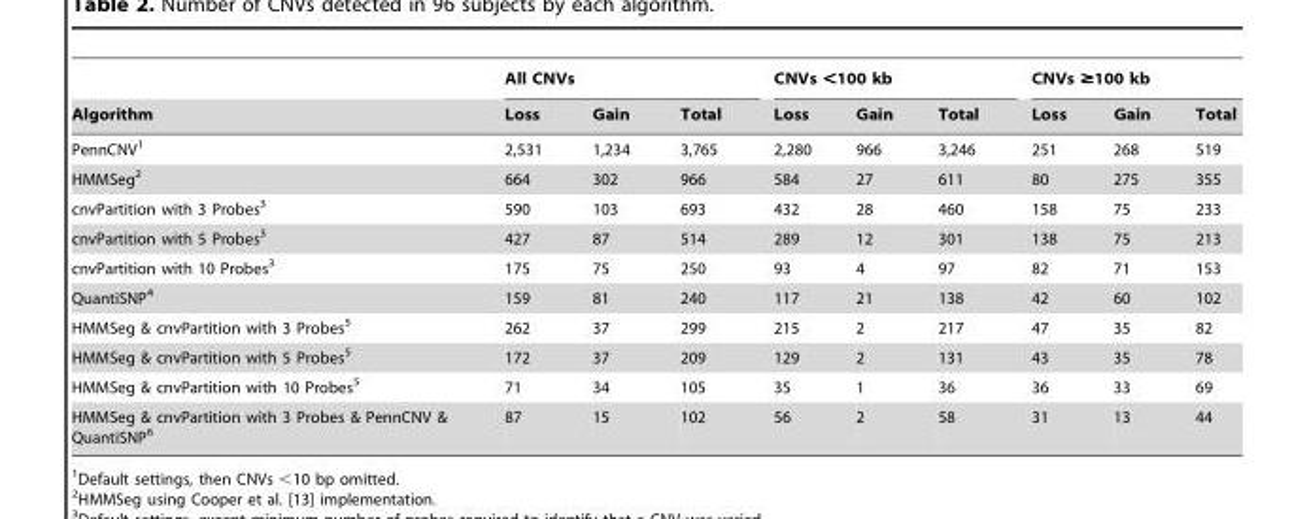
<table><thead><tr><td rowspan="2">Algorithm</td><td colspan="3">All CNVs</td><td colspan="3">CNVs &lt;100 kb</td><td colspan="3">CNVs ≥100 kb</td></tr><tr><td>Loss</td><td>Gain</td><td>Total</td><td>Loss</td><td>Gain</td><td>Total</td><td>Loss</td><td>Gain</td><td>Total</td></tr></thead><tbody><tr><td>PennCNV<sup>1</sup></td><td>2,531</td><td>1,234</td><td>3,765</td><td>2,280</td><td>966</td><td>3,246</td><td>251</td><td>268</td><td>519</td></tr><tr><td>HMMSeg<sup>2</sup></td><td>664</td><td>302</td><td>966</td><td>584</td><td>27</td><td>611</td><td>80</td><td>275</td><td>355</td></tr><tr><td>cnvPartition with 3 Probes<sup>3</sup></td><td>590</td><td>103</td><td>693</td><td>432</td><td>28</td><td>460</td><td>158</td><td>75</td><td>233</td></tr><tr><td>cnvPartition with 5 Probes<sup>3</sup></td><td>427</td><td>87</td><td>514</td><td>289</td><td>12</td><td>301</td><td>138</td><td>75</td><td>213</td></tr><tr><td>cnvPartition with 10 Probes<sup>3</sup></td><td>175</td><td>75</td><td>250</td><td>93</td><td>4</td><td>97</td><td>82</td><td>71</td><td>153</td></tr><tr><td>QuantiSNP<sup>4</sup></td><td>159</td><td>81</td><td>240</td><td>117</td><td>21</td><td>138</td><td>42</td><td>60</td><td>102</td></tr><tr><td>HMMSeg &amp; cnvPartition with 3 Probes<sup>5</sup></td><td>262</td><td>37</td><td>299</td><td>215</td><td>2</td><td>217</td><td>47</td><td>35</td><td>82</td></tr><tr><td>HMMSeg &amp; cnvPartition with 5 Probes<sup>5</sup></td><td>172</td><td>37</td><td>209</td><td>129</td><td>2</td><td>131</td><td>43</td><td>35</td><td>78</td></tr><tr><td>HMMSeg &amp; cnvPartition with 10 Probes<sup>5</sup></td><td>71</td><td>34</td><td>105</td><td>35</td><td>1</td><td>36</td><td>36</td><td>33</td><td>69</td></tr><tr><td>HMMSeg &amp; cnvPartition with 3 Probes &amp; PennCNV &amp; QuantiSNP<sup>6</sup></td><td>87</td><td>15</td><td>102</td><td>56</td><td>2</td><td>58</td><td>31</td><td>13</td><td>44</td></tr></tbody></table>